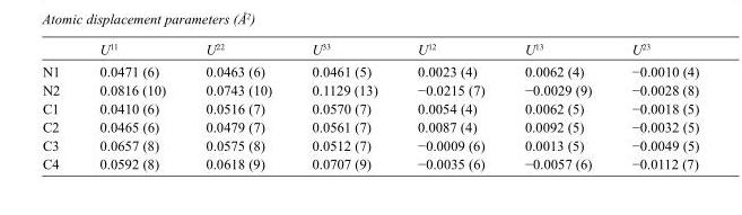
<table><thead><tr><td></td><td>U<sup>11</sup></td><td>U<sup>22</sup></td><td>U<sup>33</sup></td><td>U<sup>12</sup></td><td>U<sup>13</sup></td><td>U<sup>23</sup></td></tr></thead><tbody><tr><td>N1</td><td>0.0471 (6)</td><td>0.0463 (6)</td><td>0.0461 (5)</td><td>0.0023 (4)</td><td>0.0062 (4)</td><td>−0.0010 (4)</td></tr><tr><td>N2</td><td>0.0816 (10)</td><td>0.0743 (10)</td><td>0.1129 (13)</td><td>−0.0215 (7)</td><td>−0.0029 (9)</td><td>−0.0028 (8)</td></tr><tr><td>C1</td><td>0.0410 (6)</td><td>0.0516 (7)</td><td>0.0570 (7)</td><td>0.0054 (4)</td><td>0.0062 (5)</td><td>−0.0018 (5)</td></tr><tr><td>C2</td><td>0.0465 (6)</td><td>0.0479 (7)</td><td>0.0561 (7)</td><td>0.0087 (4)</td><td>0.0092 (5)</td><td>−0.0032 (5)</td></tr><tr><td>C3</td><td>0.0657 (8)</td><td>0.0575 (8)</td><td>0.0512 (7)</td><td>−0.0009 (6)</td><td>0.0013 (5)</td><td>−0.0049 (5)</td></tr><tr><td>C4</td><td>0.0592 (8)</td><td>0.0618 (9)</td><td>0.0707 (9)</td><td>−0.0035 (6)</td><td>−0.0057 (6)</td><td>−0.0112 (7)</td></tr></tbody></table>